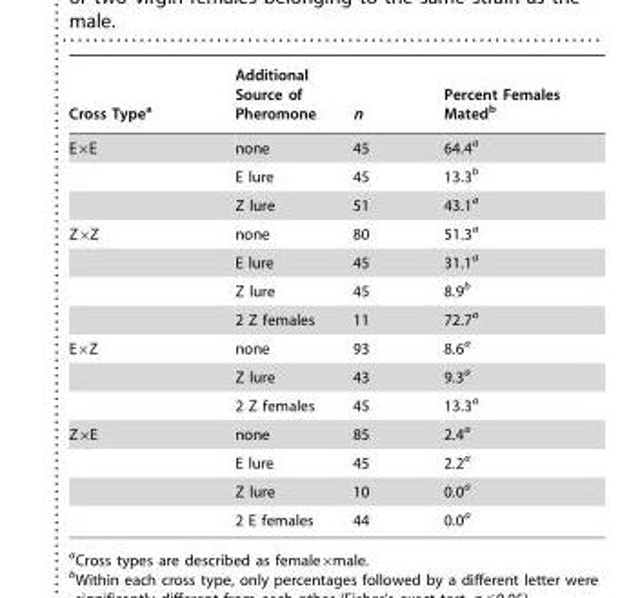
<table><thead><tr><td>Cross Type<sup>a</sup></td><td>Additional Source of Pheromone</td><td>n</td><td>Percent Females Mated<sup>b</sup></td></tr></thead><tbody><tr><td rowspan="3">E×E</td><td>none</td><td>45</td><td>64.4<sup>a</sup></td></tr><tr><td>E lure</td><td>45</td><td>13.3<sup>b</sup></td></tr><tr><td>Z lure</td><td>51</td><td>43.1<sup>a</sup></td></tr><tr><td rowspan="4">Z×Z</td><td>none</td><td>80</td><td>51.3<sup>a</sup></td></tr><tr><td>E lure</td><td>45</td><td>31.1<sup>a</sup></td></tr><tr><td>Z lure</td><td>45</td><td>8.9<sup>b</sup></td></tr><tr><td>2 Z females</td><td>11</td><td>72.7<sup>a</sup></td></tr><tr><td rowspan="3">E×Z</td><td>none</td><td>93</td><td>8.6<sup>a</sup></td></tr><tr><td>Z lure</td><td>43</td><td>9.3<sup>a</sup></td></tr><tr><td>2 Z females</td><td>45</td><td>13.3<sup>a</sup></td></tr><tr><td rowspan="4">Z×E</td><td>none</td><td>85</td><td>2.4<sup>a</sup></td></tr><tr><td>E lure</td><td>45</td><td>2.2<sup>a</sup></td></tr><tr><td>Z lure</td><td>10</td><td>0.0<sup>a</sup></td></tr><tr><td>2 E females</td><td>44</td><td>0.0<sup>a</sup></td></tr></tbody></table>